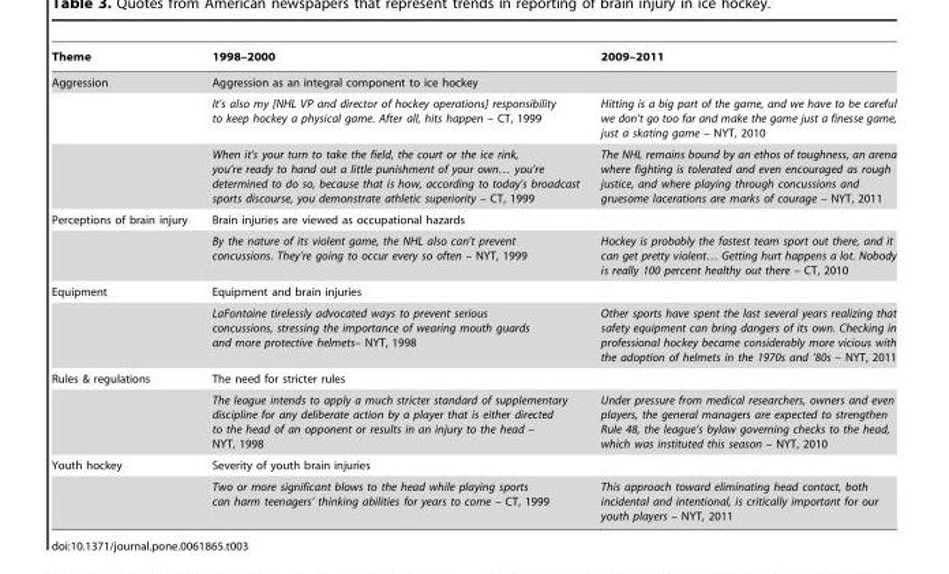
<table><thead><tr><td>Theme</td><td>1998–2000</td><td>2009–2011</td></tr></thead><tbody><tr><td rowspan="3">Aggression</td><td colspan="2">Aggression as an integral component to ice hockey</td></tr><tr><td>It’s also my [NHL VP and director of hockey operations] responsibility to keep hockey a physical game. After all, hits happen – CT, 1999</td><td>Hitting is a big part of the game, and we have to be careful we don’t go too far and make the game just a finesse game, just a skating game – NYT, 2010</td></tr><tr><td>When it’s your turn to take the field, the court or the ice rink, you’re ready to hand out a little punishment of your own… you’re determined to do so, because that is how, according to today’s broadcast sports discourse, you demonstrate athletic superiority – CT, 1999</td><td>The NHL remains bound by an ethos of toughness, an arena where fighting is tolerated and even encouraged as rough justice, and where playing through concussions and gruesome lacerations are marks of courage – NYT, 2011</td></tr><tr><td rowspan="2">Perceptions of brain injury</td><td colspan="2">Brain injuries are viewed as occupational hazards</td></tr><tr><td>By the nature of its violent game, the NHL also can’t prevent concussions. They’re going to occur every so often – NYT, 1999</td><td>Hockey is probably the fastest team sport out there, and it can get pretty violent… Getting hurt happens a lot. Nobody is really 100 percent healthy out there – CT, 2010</td></tr><tr><td rowspan="2">Equipment</td><td colspan="2">Equipment and brain injuries</td></tr><tr><td>LaFontaine tirelessly advocated ways to prevent serious concussions, stressing the importance of wearing mouth guards and more protective helmets– NYT, 1998</td><td>Other sports have spent the last several years realizing that safety equipment can bring dangers of its own. Checking in professional hockey became considerably more vicious with the adoption of helmets in the 1970s and ’80s – NYT, 2011</td></tr><tr><td rowspan="2">Rules &amp; regulations</td><td colspan="2">The need for stricter rules</td></tr><tr><td>The league intends to apply a much stricter standard of supplementary discipline for any deliberate action by a player that is either directed to the head of an opponent or results in an injury to the head – NYT, 1998</td><td>Under pressure from medical researchers, owners and even players, the general managers are expected to strengthen Rule 48, the league’s bylaw governing checks to the head, which was instituted this season – NYT, 2010</td></tr><tr><td rowspan="2">Youth hockey</td><td colspan="2">Severity of youth brain injuries</td></tr><tr><td>Two or more significant blows to the head while playing sports can harm teenagers’ thinking abilities for years to come – CT, 1999</td><td>This approach toward eliminating head contact, both incidental and intentional, is critically important for our youth players – NYT, 2011</td></tr></tbody></table>